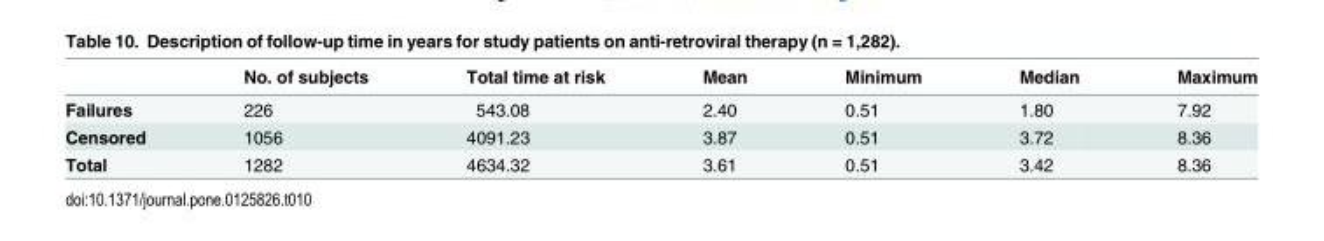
<table><thead><tr><td></td><td>No. of subjects</td><td>Total time at risk</td><td>Mean</td><td>Minimum</td><td>Median</td><td>Maximum</td></tr></thead><tbody><tr><td>Failures</td><td>226</td><td>543.08</td><td>2.40</td><td>0.51</td><td>1.80</td><td>7.92</td></tr><tr><td>Censored</td><td>1056</td><td>4091.23</td><td>3.87</td><td>0.51</td><td>3.72</td><td>8.36</td></tr><tr><td>Total</td><td>1282</td><td>4634.32</td><td>3.61</td><td>0.51</td><td>3.42</td><td>8.36</td></tr></tbody></table>